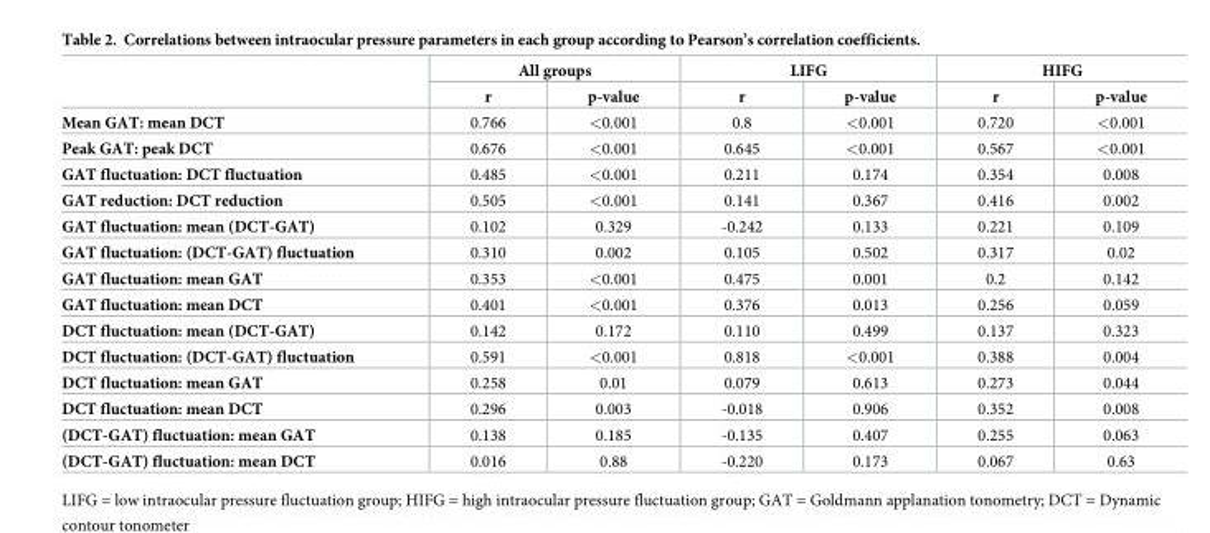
<table><thead><tr><td rowspan="2"></td><td colspan="2">All groups</td><td colspan="2">LIFG</td><td colspan="2">HIFG</td></tr><tr><td>r</td><td>p-value</td><td>r</td><td>p-value</td><td>r</td><td>p-value</td></tr></thead><tbody><tr><td>Mean GAT: mean DCT</td><td>0.766</td><td>&lt;0.001</td><td>0.8</td><td>&lt;0.001</td><td>0.720</td><td>&lt;0.001</td></tr><tr><td>Peak GAT: peak DCT</td><td>0.676</td><td>&lt;0.001</td><td>0.645</td><td>&lt;0.001</td><td>0.567</td><td>&lt;0.001</td></tr><tr><td>GAT fluctuation: DCT fluctuation</td><td>0.485</td><td>&lt;0.001</td><td>0.211</td><td>0.174</td><td>0.354</td><td>0.008</td></tr><tr><td>GAT reduction: DCT reduction</td><td>0.505</td><td>&lt;0.001</td><td>0.141</td><td>0.367</td><td>0.416</td><td>0.002</td></tr><tr><td>GAT fluctuation: mean (DCT-GAT)</td><td>0.102</td><td>0.329</td><td>-0.242</td><td>0.133</td><td>0.221</td><td>0.109</td></tr><tr><td>GAT fluctuation: (DCT-GAT) fluctuation</td><td>0.310</td><td>0.002</td><td>0.105</td><td>0.502</td><td>0.317</td><td>0.02</td></tr><tr><td>GAT fluctuation: mean GAT</td><td>0.353</td><td>&lt;0.001</td><td>0.475</td><td>0.001</td><td>0.2</td><td>0.142</td></tr><tr><td>GAT fluctuation: mean DCT</td><td>0.401</td><td>&lt;0.001</td><td>0.376</td><td>0.013</td><td>0.256</td><td>0.059</td></tr><tr><td>DCT fluctuation: mean (DCT-GAT)</td><td>0.142</td><td>0.172</td><td>0.110</td><td>0.499</td><td>0.137</td><td>0.323</td></tr><tr><td>DCT fluctuation: (DCT-GAT) fluctuation</td><td>0.591</td><td>&lt;0.001</td><td>0.818</td><td>&lt;0.001</td><td>0.388</td><td>0.004</td></tr><tr><td>DCT fluctuation: mean GAT</td><td>0.258</td><td>0.01</td><td>0.079</td><td>0.613</td><td>0.273</td><td>0.044</td></tr><tr><td>DCT fluctuation: mean DCT</td><td>0.296</td><td>0.003</td><td>-0.018</td><td>0.906</td><td>0.352</td><td>0.008</td></tr><tr><td>(DCT-GAT) fluctuation: mean GAT</td><td>0.138</td><td>0.185</td><td>-0.135</td><td>0.407</td><td>0.255</td><td>0.063</td></tr><tr><td>(DCT-GAT) fluctuation: mean DCT</td><td>0.016</td><td>0.88</td><td>-0.220</td><td>0.173</td><td>0.067</td><td>0.63</td></tr></tbody></table>